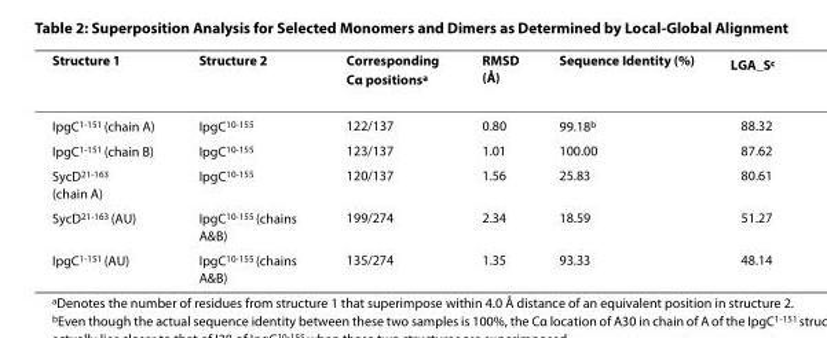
<table><thead><tr><td>Structure 1</td><td>Structure 2</td><td>Corresponding Cα positions<sup>a</sup></td><td>RMSD (Å)</td><td>Sequence Identity (%)</td><td>LGA_S<sup>c</sup></td></tr></thead><tbody><tr><td>IpgC<sup>1-151</sup> (chain A)</td><td>IpgC<sup>10-155</sup></td><td>122/137</td><td>0.80</td><td>99.18<sup>b</sup></td><td>88.32</td></tr><tr><td>IpgC<sup>1-151</sup> (chain B)</td><td>IpgC<sup>10-155</sup></td><td>123/137</td><td>1.01</td><td>100.00</td><td>87.62</td></tr><tr><td>SycD<sup>21-163</sup> (chain A)</td><td>IpgC<sup>10-155</sup></td><td>120/137</td><td>1.56</td><td>25.83</td><td>80.61</td></tr><tr><td>SycD<sup>21-163</sup> (AU)</td><td>IpgC<sup>10-155</sup> (chains A&amp;B)</td><td>199/274</td><td>2.34</td><td>18.59</td><td>51.27</td></tr><tr><td>IpgC<sup>1-151</sup> (AU)</td><td>IpgC<sup>10-155</sup> (chains A&amp;B)</td><td>135/274</td><td>1.35</td><td>93.33</td><td>48.14</td></tr></tbody></table>